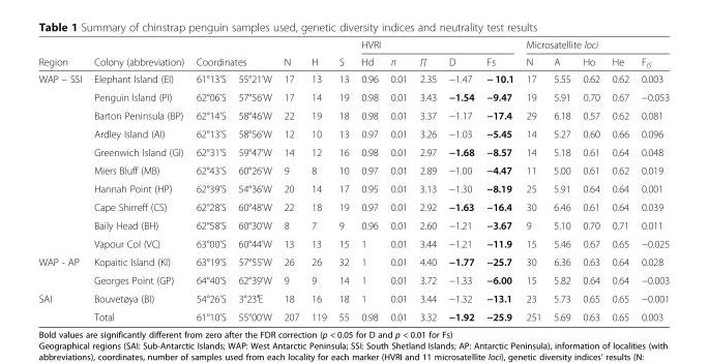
<table><thead><tr><td rowspan="2">Region</td><td rowspan="2">Colony (abbreviation)</td><td></td><td></td><td rowspan="2">N</td><td rowspan="2">H</td><td rowspan="2">S</td><td colspan="5">HVRI</td><td colspan="5">Microsatellite loci</td></tr><tr><td colspan="2">Coordinates</td><td>Hd</td><td>π</td><td>∏</td><td>D</td><td>Fs</td><td>N</td><td>A</td><td>Ho</td><td>He</td><td>F<sub>IS</sub></td></tr></thead><tbody><tr><td rowspan="10">WAP – SSI</td><td>Elephant Island (EI)</td><td>61°13’S</td><td>55°21’W</td><td>17</td><td>13</td><td>13</td><td>0.96</td><td>0.01</td><td>2.35</td><td>−1.47</td><td>− 10.1</td><td>17</td><td>5.55</td><td>0.62</td><td>0.62</td><td>0.003</td></tr><tr><td>Penguin Island (PI)</td><td>62°06’S</td><td>57°56’W</td><td>17</td><td>14</td><td>19</td><td>0.98</td><td>0.01</td><td>3.43</td><td>−1.54</td><td>−9.47</td><td>19</td><td>5.91</td><td>0.70</td><td>0.67</td><td>−0.053</td></tr><tr><td>Barton Peninsula (BP)</td><td>62°14’S</td><td>58°46’W</td><td>22</td><td>19</td><td>18</td><td>0.98</td><td>0.01</td><td>3.37</td><td>−1.17</td><td>−17.4</td><td>29</td><td>6.18</td><td>0.57</td><td>0.62</td><td>0.081</td></tr><tr><td>Ardley Island (AI)</td><td>62°13’S</td><td>58°56’W</td><td>12</td><td>10</td><td>13</td><td>0.97</td><td>0.01</td><td>3.26</td><td>−1.03</td><td>−5.45</td><td>14</td><td>5.27</td><td>0.60</td><td>0.66</td><td>0.096</td></tr><tr><td>Greenwich Island (GI)</td><td>62°31’S</td><td>59°47’W</td><td>14</td><td>12</td><td>16</td><td>0.98</td><td>0.01</td><td>2.97</td><td>−1.68</td><td>−8.57</td><td>14</td><td>5.18</td><td>0.61</td><td>0.64</td><td>0.048</td></tr><tr><td>Miers Bluff (MB)</td><td>62°43’S</td><td>60°26’W</td><td>9</td><td>8</td><td>10</td><td>0.97</td><td>0.01</td><td>2.89</td><td>−1.00</td><td>−4.47</td><td>11</td><td>5.00</td><td>0.61</td><td>0.62</td><td>0.019</td></tr><tr><td>Hannah Point (HP)</td><td>62°39’S</td><td>54°36’W</td><td>20</td><td>14</td><td>17</td><td>0.95</td><td>0.01</td><td>3.13</td><td>−1.30</td><td>−8.19</td><td>25</td><td>5.91</td><td>0.64</td><td>0.64</td><td>0.001</td></tr><tr><td>Cape Shirreff (CS)</td><td>62°28’S</td><td>60°48’W</td><td>22</td><td>18</td><td>19</td><td>0.97</td><td>0.01</td><td>2.92</td><td>−1.63</td><td>−16.4</td><td>30</td><td>6.46</td><td>0.61</td><td>0.64</td><td>0.039</td></tr><tr><td>Baily Head (BH)</td><td>62°58’S</td><td>60°30’W</td><td>8</td><td>7</td><td>9</td><td>0.96</td><td>0.01</td><td>2.60</td><td>−1.21</td><td>−3.67</td><td>9</td><td>5.10</td><td>0.70</td><td>0.71</td><td>0.011</td></tr><tr><td>Vapour Col (VC)</td><td>63°00’S</td><td>60°44’W</td><td>13</td><td>13</td><td>15</td><td>1</td><td>0.01</td><td>3.44</td><td>−1.21</td><td>−11.9</td><td>15</td><td>5.46</td><td>0.67</td><td>0.65</td><td>−0.025</td></tr><tr><td rowspan="2">WAP - AP</td><td>Kopaitic Island (KI)</td><td>63°19’S</td><td>57°55’W</td><td>26</td><td>26</td><td>32</td><td>1</td><td>0.01</td><td>4.40</td><td>−1.77</td><td>−25.7</td><td>30</td><td>6.36</td><td>0.63</td><td>0.64</td><td>0.028</td></tr><tr><td>Georges Point (GP)</td><td>64°40’S</td><td>62°39’W</td><td>9</td><td>9</td><td>14</td><td>1</td><td>0.01</td><td>3.72</td><td>−1.33</td><td>−6.00</td><td>15</td><td>5.82</td><td>0.64</td><td>0.64</td><td>−0.003</td></tr><tr><td rowspan="2">SAI</td><td>Bouvetøya (BI)</td><td>54°26’S</td><td>3°23′E</td><td>18</td><td>16</td><td>18</td><td>1</td><td>0.01</td><td>3.44</td><td>−1.32</td><td>−13.1</td><td>23</td><td>5.73</td><td>0.65</td><td>0.65</td><td>−0.001</td></tr><tr><td>Total</td><td>61°10’S</td><td>55°00’W</td><td>207</td><td>119</td><td>55</td><td>0.98</td><td>0.01</td><td>3.32</td><td>−1.92</td><td>−25.9</td><td>251</td><td>5.69</td><td>0.63</td><td>0.65</td><td>0.003</td></tr></tbody></table>